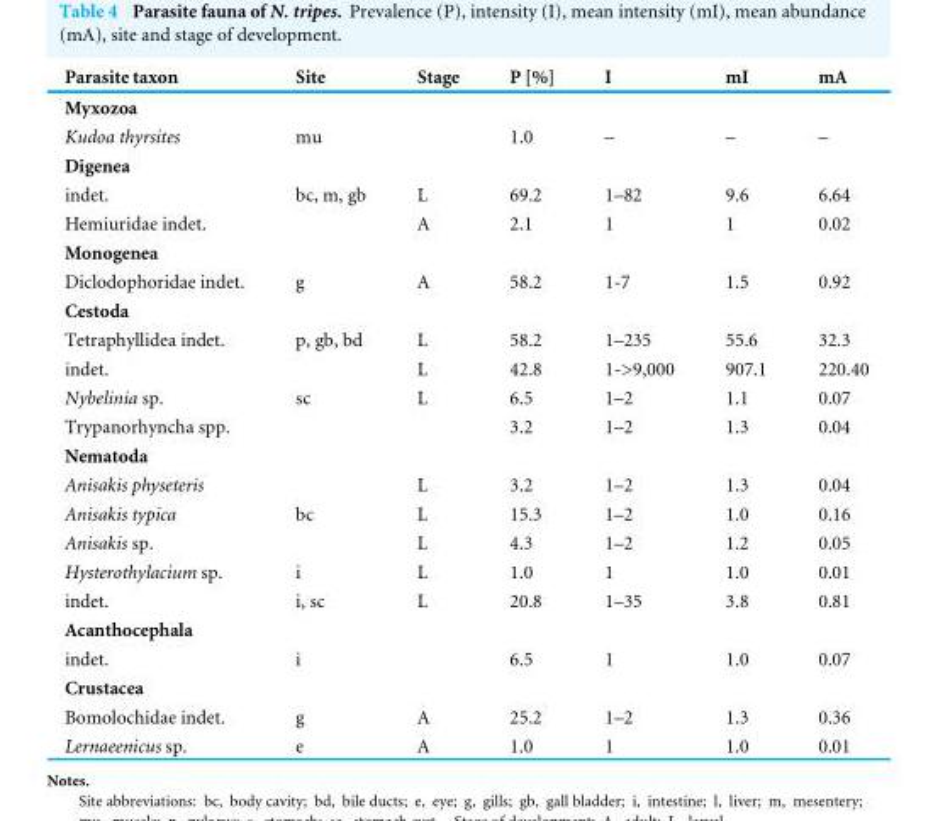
<table><thead><tr><td>Parasite taxon</td><td>Site</td><td>Stage</td><td>P [%]</td><td>I</td><td>mI</td><td>mA</td></tr></thead><tbody><tr><td colspan="7">Myxozoa</td></tr><tr><td>Kudoa thyrsites</td><td>mu</td><td></td><td>1.0</td><td>–</td><td>–</td><td>–</td></tr><tr><td colspan="7">Digenea</td></tr><tr><td>indet.</td><td>bc, m, gb</td><td>L</td><td>69.2</td><td>1–82</td><td>9.6</td><td>6.64</td></tr><tr><td>Hemiuridae indet.</td><td></td><td>A</td><td>2.1</td><td>1</td><td>1</td><td>0.02</td></tr><tr><td colspan="7">Monogenea</td></tr><tr><td>Diclodophoridae indet.</td><td>g</td><td>A</td><td>58.2</td><td>1-7</td><td>1.5</td><td>0.92</td></tr><tr><td colspan="7">Cestoda</td></tr><tr><td>Tetraphyllidea indet.</td><td>p, gb, bd</td><td>L</td><td>58.2</td><td>1–235</td><td>55.6</td><td>32.3</td></tr><tr><td>indet.</td><td></td><td>L</td><td>42.8</td><td>1-&gt;9,000</td><td>907.1</td><td>220.40</td></tr><tr><td>Nybelinia sp.</td><td>sc</td><td>L</td><td>6.5</td><td>1–2</td><td>1.1</td><td>0.07</td></tr><tr><td>Trypanorhyncha spp.</td><td></td><td></td><td>3.2</td><td>1–2</td><td>1.3</td><td>0.04</td></tr><tr><td colspan="7">Nematoda</td></tr><tr><td>Anisakis physeteris</td><td></td><td>L</td><td>3.2</td><td>1–2</td><td>1.3</td><td>0.04</td></tr><tr><td>Anisakis typica</td><td>bc</td><td>L</td><td>15.3</td><td>1–2</td><td>1.0</td><td>0.16</td></tr><tr><td>Anisakis sp.</td><td></td><td>L</td><td>4.3</td><td>1–2</td><td>1.2</td><td>0.05</td></tr><tr><td>Hysterothylacium sp.</td><td>i</td><td>L</td><td>1.0</td><td>1</td><td>1.0</td><td>0.01</td></tr><tr><td>indet.</td><td>i, sc</td><td>L</td><td>20.8</td><td>1–35</td><td>3.8</td><td>0.81</td></tr><tr><td colspan="7">Acanthocephala</td></tr><tr><td>indet.</td><td>i</td><td></td><td>6.5</td><td>1</td><td>1.0</td><td>0.07</td></tr><tr><td colspan="7">Crustacea</td></tr><tr><td>Bomolochidae indet.</td><td>g</td><td>A</td><td>25.2</td><td>1–2</td><td>1.3</td><td>0.36</td></tr><tr><td>Lernaeenicus sp.</td><td>e</td><td>A</td><td>1.0</td><td>1</td><td>1.0</td><td>0.01</td></tr></tbody></table>